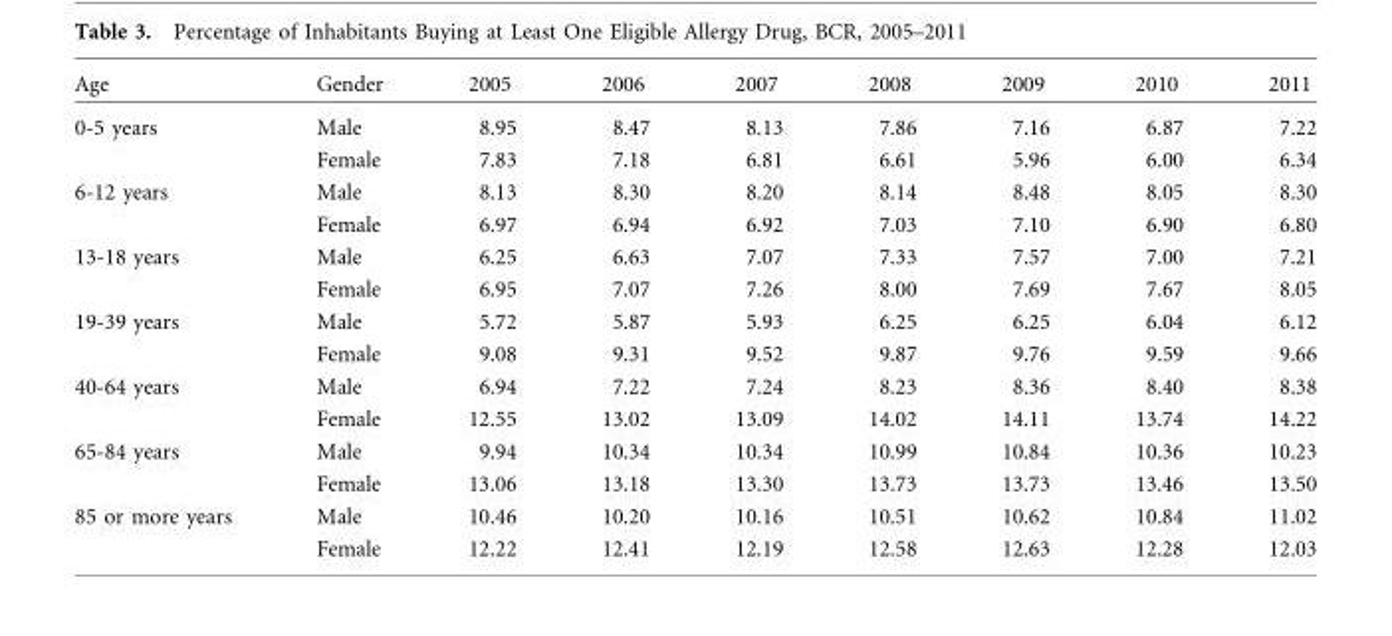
<table><thead><tr><td>Age</td><td>Gender</td><td>2005</td><td>2006</td><td>2007</td><td>2008</td><td>2009</td><td>2010</td><td>2011</td></tr></thead><tbody><tr><td rowspan="2">0-5 years</td><td>Male</td><td>8.95</td><td>8.47</td><td>8.13</td><td>7.86</td><td>7.16</td><td>6.87</td><td>7.22</td></tr><tr><td>Female</td><td>7.83</td><td>7.18</td><td>6.81</td><td>6.61</td><td>5.96</td><td>6.00</td><td>6.34</td></tr><tr><td rowspan="2">6-12 years</td><td>Male</td><td>8.13</td><td>8.30</td><td>8.20</td><td>8.14</td><td>8.48</td><td>8.05</td><td>8.30</td></tr><tr><td>Female</td><td>6.97</td><td>6.94</td><td>6.92</td><td>7.03</td><td>7.10</td><td>6.90</td><td>6.80</td></tr><tr><td rowspan="2">13-18 years</td><td>Male</td><td>6.25</td><td>6.63</td><td>7.07</td><td>7.33</td><td>7.57</td><td>7.00</td><td>7.21</td></tr><tr><td>Female</td><td>6.95</td><td>7.07</td><td>7.26</td><td>8.00</td><td>7.69</td><td>7.67</td><td>8.05</td></tr><tr><td rowspan="2">19-39 years</td><td>Male</td><td>5.72</td><td>5.87</td><td>5.93</td><td>6.25</td><td>6.25</td><td>6.04</td><td>6.12</td></tr><tr><td>Female</td><td>9.08</td><td>9.31</td><td>9.52</td><td>9.87</td><td>9.76</td><td>9.59</td><td>9.66</td></tr><tr><td rowspan="2">40-64 years</td><td>Male</td><td>6.94</td><td>7.22</td><td>7.24</td><td>8.23</td><td>8.36</td><td>8.40</td><td>8.38</td></tr><tr><td>Female</td><td>12.55</td><td>13.02</td><td>13.09</td><td>14.02</td><td>14.11</td><td>13.74</td><td>14.22</td></tr><tr><td rowspan="2">65-84 years</td><td>Male</td><td>9.94</td><td>10.34</td><td>10.34</td><td>10.99</td><td>10.84</td><td>10.36</td><td>10.23</td></tr><tr><td>Female</td><td>13.06</td><td>13.18</td><td>13.30</td><td>13.73</td><td>13.73</td><td>13.46</td><td>13.50</td></tr><tr><td rowspan="2">85 or more years</td><td>Male</td><td>10.46</td><td>10.20</td><td>10.16</td><td>10.51</td><td>10.62</td><td>10.84</td><td>11.02</td></tr><tr><td>Female</td><td>12.22</td><td>12.41</td><td>12.19</td><td>12.58</td><td>12.63</td><td>12.28</td><td>12.03</td></tr></tbody></table>